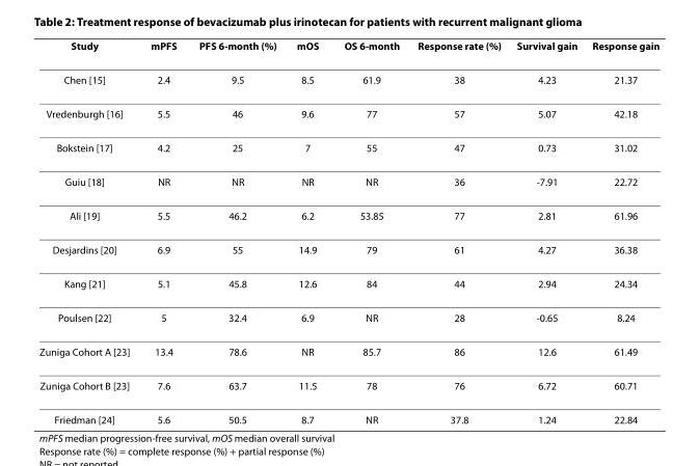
<table><thead><tr><td>Study</td><td>mPFS</td><td>PFS 6-month (%)</td><td>mOS</td><td>OS 6-month</td><td>Response rate (%)</td><td>Survival gain</td><td>Response gain</td></tr></thead><tbody><tr><td>Chen [15]</td><td>2.4</td><td>9.5</td><td>8.5</td><td>61.9</td><td>38</td><td>4.23</td><td>21.37</td></tr><tr><td>Vredenburgh [16]</td><td>5.5</td><td>46</td><td>9.6</td><td>77</td><td>57</td><td>5.07</td><td>42.18</td></tr><tr><td>Bokstein [17]</td><td>4.2</td><td>25</td><td>7</td><td>55</td><td>47</td><td>0.73</td><td>31.02</td></tr><tr><td>Guiu [18]</td><td>NR</td><td>NR</td><td>NR</td><td>NR</td><td>36</td><td>-7.91</td><td>22.72</td></tr><tr><td>Ali [19]</td><td>5.5</td><td>46.2</td><td>6.2</td><td>53.85</td><td>77</td><td>2.81</td><td>61.96</td></tr><tr><td>Desjardins [20]</td><td>6.9</td><td>55</td><td>14.9</td><td>79</td><td>61</td><td>4.27</td><td>36.38</td></tr><tr><td>Kang [21]</td><td>5.1</td><td>45.8</td><td>12.6</td><td>84</td><td>44</td><td>2.94</td><td>24.34</td></tr><tr><td>Poulsen [22]</td><td>5</td><td>32.4</td><td>6.9</td><td>NR</td><td>28</td><td>-0.65</td><td>8.24</td></tr><tr><td>Zuniga Cohort A [23]</td><td>13.4</td><td>78.6</td><td>NR</td><td>85.7</td><td>86</td><td>12.6</td><td>61.49</td></tr><tr><td>Zuniga Cohort B [23]</td><td>7.6</td><td>63.7</td><td>11.5</td><td>78</td><td>76</td><td>6.72</td><td>60.71</td></tr><tr><td>Friedman [24]</td><td>5.6</td><td>50.5</td><td>8.7</td><td>NR</td><td>37.8</td><td>1.24</td><td>22.84</td></tr></tbody></table>